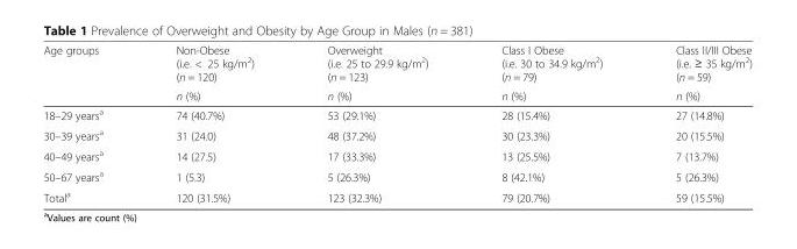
<table><thead><tr><td rowspan="2">Age groups</td><td rowspan="2">Non-Obese (i.e. &lt; 25 kg/m<sup>2</sup>) (n = 120) n (%)</td><td rowspan="2">Overweight (i.e. 25 to 29.9 kg/m<sup>2</sup>) (n = 123) n (%)</td><td rowspan="2">Class I Obese (i.e. 30 to 34.9 kg/m<sup>2</sup>) (n = 79) n (%)</td><td rowspan="2">Class II/III Obese (i.e. ≥ 35 kg/m<sup>2</sup>) (n = 59) n (%)</td></tr><tr></tr></thead><tbody><tr><td>18–29 years<sup>a</sup></td><td>74 (40.7%)</td><td>53 (29.1%)</td><td>28 (15.4%)</td><td>27 (14.8%)</td></tr><tr><td>30–39 years<sup>a</sup></td><td>31 (24.0)</td><td>48 (37.2%)</td><td>30 (23.3%)</td><td>20 (15.5%)</td></tr><tr><td>40–49 years<sup>a</sup></td><td>14 (27.5)</td><td>17 (33.3%)</td><td>13 (25.5%)</td><td>7 (13.7%)</td></tr><tr><td>50–67 years<sup>a</sup></td><td>1 (5.3)</td><td>5 (26.3%)</td><td>8 (42.1%)</td><td>5 (26.3%)</td></tr><tr><td>Total<sup>a</sup></td><td>120 (31.5%)</td><td>123 (32.3%)</td><td>79 (20.7%)</td><td>59 (15.5%)</td></tr></tbody></table>